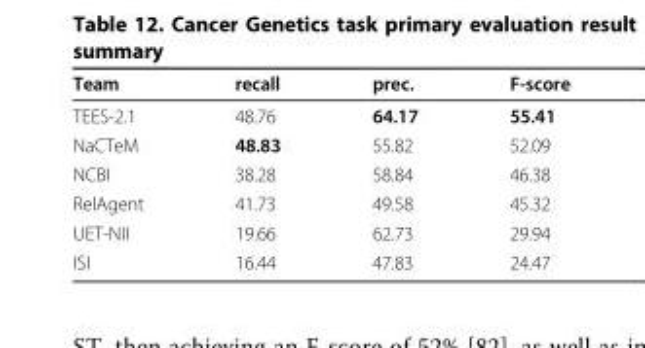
<table><thead><tr><td>Team</td><td>recall</td><td>prec.</td><td>F-score</td></tr></thead><tbody><tr><td>TEES-2.1</td><td>48.76</td><td>64.17</td><td>55.41</td></tr><tr><td>NaCTeM</td><td>48.83</td><td>55.82</td><td>52.09</td></tr><tr><td>NCBI</td><td>38.28</td><td>58.84</td><td>46.38</td></tr><tr><td>RelAgent</td><td>41.73</td><td>49.58</td><td>45.32</td></tr><tr><td>UET-NII</td><td>19.66</td><td>62.73</td><td>29.94</td></tr><tr><td>ISI</td><td>16.44</td><td>47.83</td><td>24.47</td></tr></tbody></table>